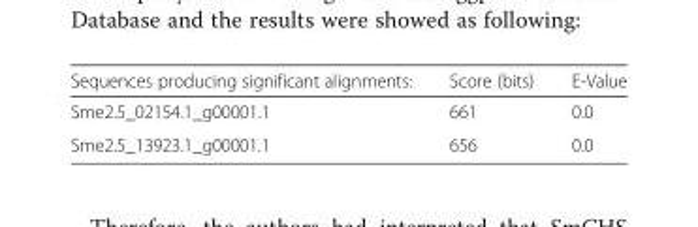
<table><thead><tr><td>Sequences producing significant alignments:</td><td>Score (bits)</td><td>E-Value</td></tr></thead><tbody><tr><td>Sme2.5_02154.1_g00001.1</td><td>661</td><td>0.0</td></tr><tr><td>Sme2.5_13923.1_g00001.1</td><td>656</td><td>0.0</td></tr></tbody></table>